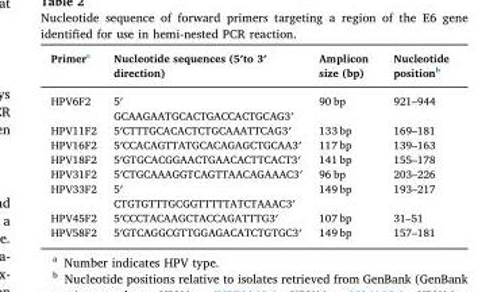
<table><thead><tr><td>Primer<sup>a</sup></td><td>Nucleotide sequences (5′to 3′ direction)</td><td>Amplicon size (bp)</td><td>Nucleotide position<sup>b</sup></td></tr></thead><tbody><tr><td>HPV6F2</td><td>5′ GCAAGAATGCACTGACCACTGCAG3′</td><td>90 bp</td><td>921–944</td></tr><tr><td>HPV11F2</td><td>5′CTTTGCACACTCTGCAAATTCAG3′</td><td>133 bp</td><td>169–181</td></tr><tr><td>HPV16F2</td><td>5′CCACAGTTATGCACAGAGCTGCAA3′</td><td>117 bp</td><td>139–163</td></tr><tr><td>HPV18F2</td><td>5′GTGCACGGAACTGAACACTTCACT3′</td><td>141 bp</td><td>155–178</td></tr><tr><td>HPV31F2</td><td>5′CTGCAAAGGTCAGTTAACAGAAAC3′</td><td>96 bp</td><td>203–226</td></tr><tr><td>HPV33F2</td><td>5′ CTGTGTTTGCGGTTTTTATCTAAAC3′</td><td>149 bp</td><td>193–217</td></tr><tr><td>HPV45F2</td><td>5′CCCTACAAGCTACCAGATTTG3′</td><td>107 bp</td><td>31–51</td></tr><tr><td>HPV58F2</td><td>5′GTCAGGCGTTGGAGACATCTGTGC3′</td><td>149 bp</td><td>157–181</td></tr></tbody></table>